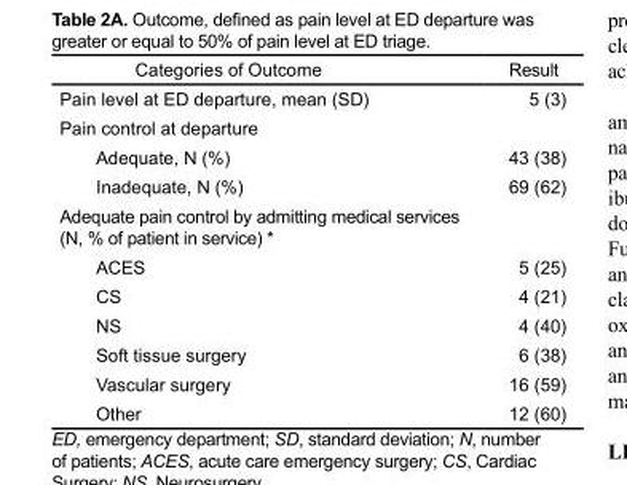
<table><thead><tr><td>Categories of Outcome</td><td>Result</td></tr></thead><tbody><tr><td>Pain level at ED departure, mean (SD)</td><td>5 (3)</td></tr><tr><td colspan="2">Pain control at departure</td></tr><tr><td>Adequate, N (%)</td><td>43 (38)</td></tr><tr><td>Inadequate, N (%)</td><td>69 (62)</td></tr><tr><td colspan="2">Adequate pain control by admitting medical services (N, % of patient in service) *</td></tr><tr><td>ACES</td><td>5 (25)</td></tr><tr><td>CS</td><td>4 (21)</td></tr><tr><td>NS</td><td>4 (40)</td></tr><tr><td>Soft tissue surgery</td><td>6 (38)</td></tr><tr><td>Vascular surgery</td><td>16 (59)</td></tr><tr><td>Other</td><td>12 (60)</td></tr></tbody></table>